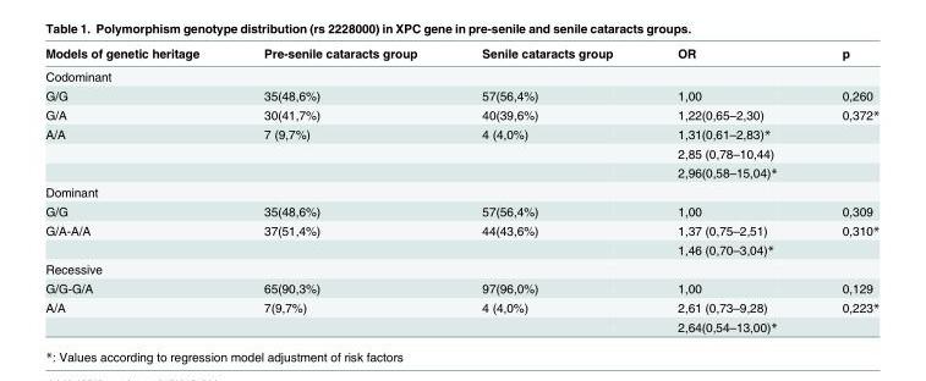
<table><thead><tr><td>Models of genetic heritage</td><td>Pre-senile cataracts group</td><td>Senile cataracts group</td><td>OR</td><td>p</td></tr></thead><tbody><tr><td colspan="5">Codominant</td></tr><tr><td>G/G</td><td>35(48,6%)</td><td>57(56,4%)</td><td>1,00</td><td>0,260</td></tr><tr><td>G/A</td><td>30(41,7%)</td><td>40(39,6%)</td><td>1,22(0,65–2,30)</td><td>0,372*</td></tr><tr><td rowspan="3">A/A</td><td>7 (9,7%)</td><td>4 (4,0%)</td><td>1,31(0,61–2,83)*</td><td></td></tr><tr><td></td><td></td><td>2,85 (0,78–10,44)</td><td></td></tr><tr><td></td><td></td><td>2,96(0,58–15,04)*</td><td></td></tr><tr><td colspan="5">Dominant</td></tr><tr><td>G/G</td><td>35(48,6%)</td><td>57(56,4%)</td><td>1,00</td><td>0,309</td></tr><tr><td rowspan="2">G/A-A/A</td><td>37(51,4%)</td><td>44(43,6%)</td><td>1,37 (0,75–2,51)</td><td>0,310*</td></tr><tr><td></td><td></td><td>1,46 (0,70–3,04)*</td><td></td></tr><tr><td colspan="5">Recessive</td></tr><tr><td>G/G-G/A</td><td>65(90,3%)</td><td>97(96,0%)</td><td>1,00</td><td>0,129</td></tr><tr><td rowspan="2">A/A</td><td>7(9,7%)</td><td>4 (4,0%)</td><td>2,61 (0,73–9,28)</td><td>0,223*</td></tr><tr><td></td><td></td><td>2,64(0,54–13,00)*</td><td></td></tr></tbody></table>